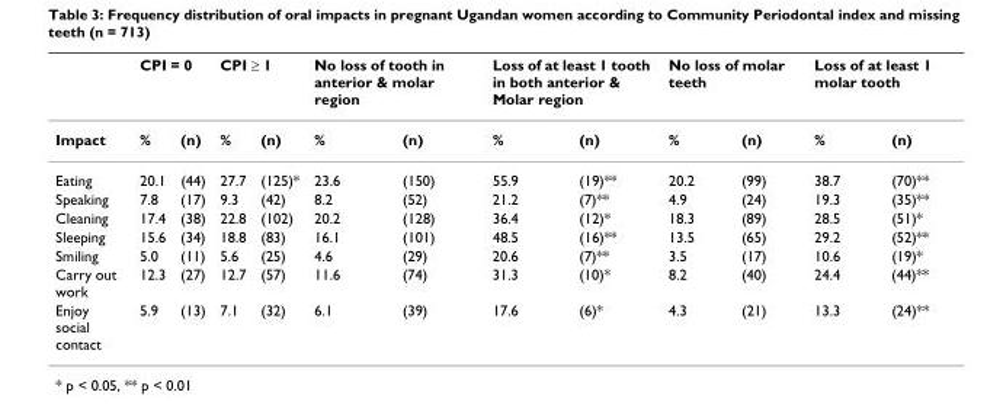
<table><thead><tr><td rowspan="2">Impact</td><td colspan="2">CPI = 0</td><td colspan="2">CPI ≥ 1</td><td colspan="2">No loss of tooth in anterior &amp; molar region</td><td colspan="2">Loss of at least 1 tooth in both anterior &amp; Molar region</td><td colspan="2">No loss of molar teeth</td><td colspan="2">Loss of at least 1 molar tooth</td></tr><tr><td>%</td><td>(n)</td><td>%</td><td>(n)</td><td>%</td><td>(n)</td><td>%</td><td>(n)</td><td>%</td><td>(n)</td><td>%</td><td>(n)</td></tr></thead><tbody><tr><td>Eating</td><td>20.1</td><td>(44)</td><td>27.7</td><td>(125)*</td><td>23.6</td><td>(150)</td><td>55.9</td><td>(19)**</td><td>20.2</td><td>(99)</td><td>38.7</td><td>(70)**</td></tr><tr><td>Speaking</td><td>7.8</td><td>(17)</td><td>9.3</td><td>(42)</td><td>8.2</td><td>(52)</td><td>21.2</td><td>(7)**</td><td>4.9</td><td>(24)</td><td>19.3</td><td>(35)**</td></tr><tr><td>Cleaning</td><td>17.4</td><td>(38)</td><td>22.8</td><td>(102)</td><td>20.2</td><td>(128)</td><td>36.4</td><td>(12)*</td><td>18.3</td><td>(89)</td><td>28.5</td><td>(51)*</td></tr><tr><td>Sleeping</td><td>15.6</td><td>(34)</td><td>18.8</td><td>(83)</td><td>16.1</td><td>(101)</td><td>48.5</td><td>(16)**</td><td>13.5</td><td>(65)</td><td>29.2</td><td>(52)**</td></tr><tr><td>Smiling</td><td>5.0</td><td>(11)</td><td>5.6</td><td>(25)</td><td>4.6</td><td>(29)</td><td>20.6</td><td>(7)**</td><td>3.5</td><td>(17)</td><td>10.6</td><td>(19)*</td></tr><tr><td>Carry out work</td><td>12.3</td><td>(27)</td><td>12.7</td><td>(57)</td><td>11.6</td><td>(74)</td><td>31.3</td><td>(10)*</td><td>8.2</td><td>(40)</td><td>24.4</td><td>(44)**</td></tr><tr><td>Enjoy social contact</td><td>5.9</td><td>(13)</td><td>7.1</td><td>(32)</td><td>6.1</td><td>(39)</td><td>17.6</td><td>(6)*</td><td>4.3</td><td>(21)</td><td>13.3</td><td>(24)**</td></tr></tbody></table>